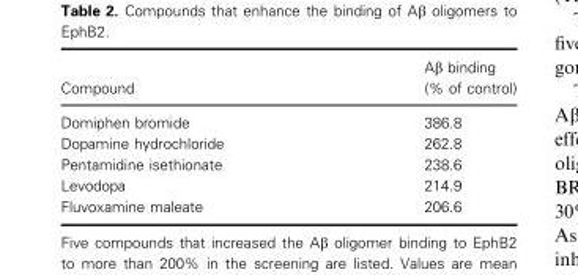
<table><thead><tr><td>Compound</td><td>Aβ binding (% of control)</td></tr></thead><tbody><tr><td>Domiphen bromide</td><td>386.8</td></tr><tr><td>Dopamine hydrochloride</td><td>262.8</td></tr><tr><td>Pentamidine isethionate</td><td>238.6</td></tr><tr><td>Levodopa</td><td>214.9</td></tr><tr><td>Fluvoxamine maleate</td><td>206.6</td></tr></tbody></table>